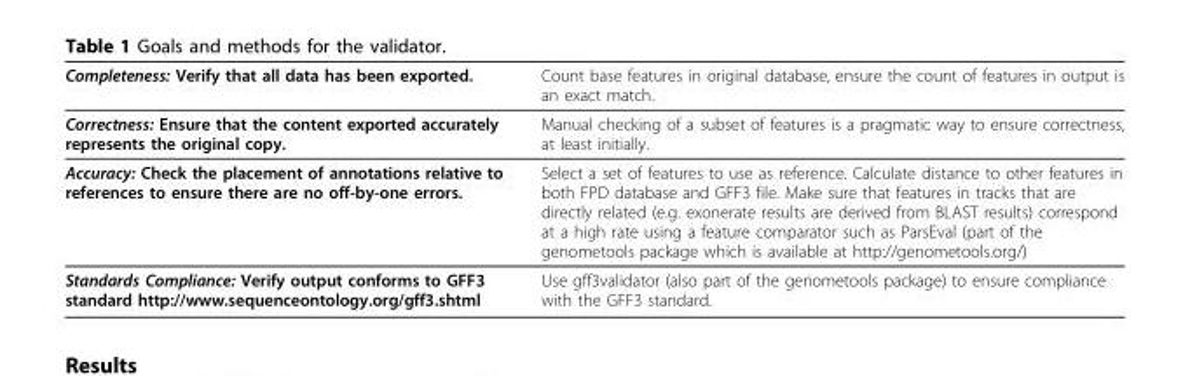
<table><thead><tr><td>Completeness: Verify that all data has been exported.</td><td>Count base features in original database, ensure the count of features in output is an exact match.</td></tr></thead><tbody><tr><td>Correctness: Ensure that the content exported accurately represents the original copy.</td><td>Manual checking of a subset of features is a pragmatic way to ensure correctness, at least initially.</td></tr><tr><td>Accuracy: Check the placement of annotations relative to references to ensure there are no off-by-one errors.</td><td>Select a set of features to use as reference. Calculate distance to other features in both FPD database and GFF3 file. Make sure that features in tracks that are directly related (e.g. exonerate results are derived from BLAST results) correspond at a high rate using a feature comparator such as ParsEval (part of the genometools package which is available at http://genometools.org/)</td></tr><tr><td>Standards Compliance: Verify output conforms to GFF3 standard http://www.sequenceontology.org/gff3.shtml</td><td>Use gff3validator (also part of the genometools package) to ensure compliance with the GFF3 standard.</td></tr></tbody></table>